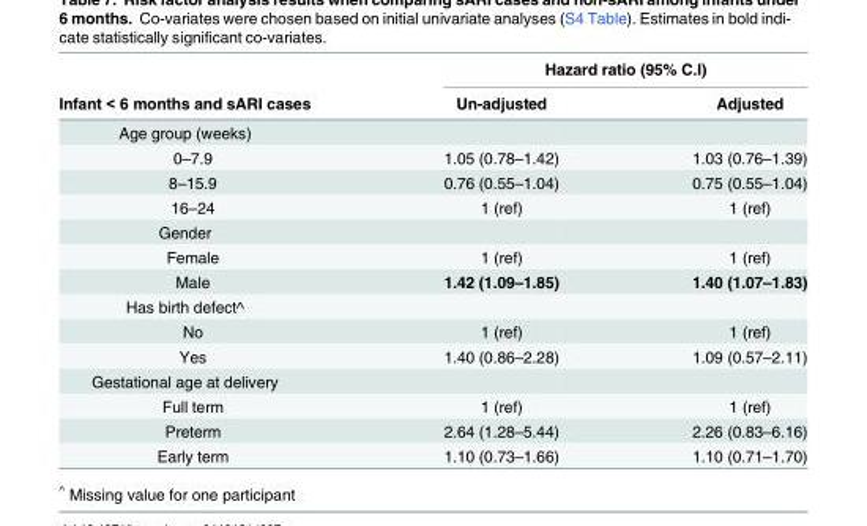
<table><thead><tr><td rowspan="2">Infant &lt; 6 months and sARI cases</td><td colspan="2">Hazard ratio (95% C.I)</td></tr><tr><td>Un-adjusted</td><td>Adjusted</td></tr></thead><tbody><tr><td colspan="3">Age group (weeks)</td></tr><tr><td>0–7.9</td><td>1.05 (0.78–1.42)</td><td>1.03 (0.76–1.39)</td></tr><tr><td>8–15.9</td><td>0.76 (0.55–1.04)</td><td>0.75 (0.55–1.04)</td></tr><tr><td>16–24</td><td>1 (ref)</td><td>1 (ref)</td></tr><tr><td colspan="3">Gender</td></tr><tr><td>Female</td><td>1 (ref)</td><td>1 (ref)</td></tr><tr><td>Male</td><td>1.42 (1.09–1.85)</td><td>1.40 (1.07–1.83)</td></tr><tr><td colspan="3">Has birth defect^</td></tr><tr><td>No</td><td>1 (ref)</td><td>1 (ref)</td></tr><tr><td>Yes</td><td>1.40 (0.86–2.28)</td><td>1.09 (0.57–2.11)</td></tr><tr><td colspan="3">Gestational age at delivery</td></tr><tr><td>Full term</td><td>1 (ref)</td><td>1 (ref)</td></tr><tr><td>Preterm</td><td>2.64 (1.28–5.44)</td><td>2.26 (0.83–6.16)</td></tr><tr><td>Early term</td><td>1.10 (0.73–1.66)</td><td>1.10 (0.71–1.70)</td></tr></tbody></table>